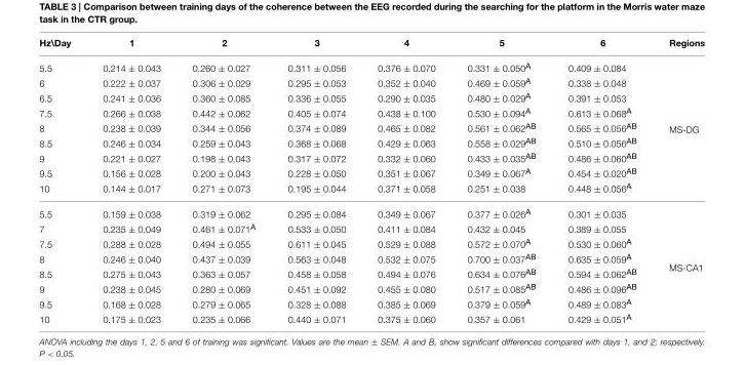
<table><thead><tr><td>Hz\Day</td><td>1</td><td>2</td><td>3</td><td>4</td><td>5</td><td>6</td><td>Regions</td></tr></thead><tbody><tr><td>5.5</td><td>0.214 ± 0.043</td><td>0.260 ± 0.027</td><td>0.311 ± 0.056</td><td>0.376 ± 0.070</td><td>0.331 ± 0.050<sup>A</sup></td><td>0.409 ± 0.084</td><td rowspan="9">MS-DG</td></tr><tr><td>6</td><td>0.222 ± 0.037</td><td>0.306 ± 0.029</td><td>0.295 ± 0.053</td><td>0.352 ± 0.040</td><td>0.469 ± 0.059<sup>A</sup></td><td>0.338 ± 0.048</td></tr><tr><td>6.5</td><td>0.241 ± 0.036</td><td>0.360 ± 0.085</td><td>0.336 ± 0.055</td><td>0.290 ± 0.035</td><td>0.480 ± 0.029<sup>A</sup></td><td>0.391 ± 0.053</td></tr><tr><td>7.5</td><td>0.266 ± 0.038</td><td>0.442 ± 0.062</td><td>0.405 ± 0.074</td><td>0.438 ± 0.100</td><td>0.530 ± 0.094<sup>A</sup></td><td>0.613 ± 0.068<sup>A</sup></td></tr><tr><td>8</td><td>0.238 ± 0.039</td><td>0.344 ± 0.056</td><td>0.374 ± 0.089</td><td>0.465 ± 0.082</td><td>0.561 ± 0.062<sup>AB</sup></td><td>0.565 ± 0.056<sup>AB</sup></td></tr><tr><td>8.5</td><td>0.246 ± 0.034</td><td>0.259 ± 0.043</td><td>0.368 ± 0.068</td><td>0.429 ± 0.063</td><td>0.558 ± 0.029<sup>AB</sup></td><td>0.510 ± 0.056<sup>AB</sup></td></tr><tr><td>9</td><td>0.221 ± 0.027</td><td>0.198 ± 0.043</td><td>0.317 ± 0.072</td><td>0.332 ± 0.060</td><td>0.433 ± 0.035<sup>AB</sup></td><td>0.486 ± 0.060<sup>AB</sup></td></tr><tr><td>9.5</td><td>0.156 ± 0.028</td><td>0.200 ± 0.043</td><td>0.228 ± 0.050</td><td>0.351 ± 0.067</td><td>0.349 ± 0.067<sup>A</sup></td><td>0.454 ± 0.020<sup>AB</sup></td></tr><tr><td>10</td><td>0.144 ± 0.017</td><td>0.271 ± 0.073</td><td>0.195 ± 0.044</td><td>0.371 ± 0.058</td><td>0.251 ± 0.038</td><td>0.448 ± 0.056<sup>A</sup></td></tr><tr><td>5.5</td><td>0.159 ± 0.038</td><td>0.319 ± 0.062</td><td>0.295 ± 0.084</td><td>0.349 ± 0.067</td><td>0.377 ± 0.026<sup>A</sup></td><td>0.301 ± 0.035</td><td rowspan="8">MS-CA1</td></tr><tr><td>7</td><td>0.235 ± 0.049</td><td>0.461 ± 0.071<sup>A</sup></td><td>0.533 ± 0.050</td><td>0.411 ± 0.084</td><td>0.432 ± 0.045</td><td>0.389 ± 0.055</td></tr><tr><td>7.5</td><td>0.288 ± 0.028</td><td>0.494 ± 0.055</td><td>0.611 ± 0.045</td><td>0.529 ± 0.088</td><td>0.572 ± 0.070<sup>A</sup></td><td>0.530 ± 0.060<sup>A</sup></td></tr><tr><td>8</td><td>0.246 ± 0.040</td><td>0.437 ± 0.039</td><td>0.563 ± 0.048</td><td>0.532 ± 0.075</td><td>0.700 ± 0.037<sup>AB</sup></td><td>0.635 ± 0.059<sup>A</sup></td></tr><tr><td>8.5</td><td>0.275 ± 0.043</td><td>0.363 ± 0.057</td><td>0.458 ± 0.058</td><td>0.494 ± 0.076</td><td>0.634 ± 0.076<sup>AB</sup></td><td>0.594 ± 0.062<sup>AB</sup></td></tr><tr><td>9</td><td>0.238 ± 0.045</td><td>0.280 ± 0.069</td><td>0.451 ± 0.092</td><td>0.455 ± 0.080</td><td>0.517 ± 0.085<sup>AB</sup></td><td>0.486 ± 0.096<sup>AB</sup></td></tr><tr><td>9.5</td><td>0.168 ± 0.028</td><td>0.279 ± 0.065</td><td>0.328 ± 0.088</td><td>0.385 ± 0.069</td><td>0.379 ± 0.059<sup>A</sup></td><td>0.489 ± 0.083<sup>A</sup></td></tr><tr><td>10</td><td>0.175 ± 0.023</td><td>0.235 ± 0.066</td><td>0.440 ± 0.071</td><td>0.375 ± 0.060</td><td>0.357 ± 0.061</td><td>0.429 ± 0.051<sup>A</sup></td></tr></tbody></table>